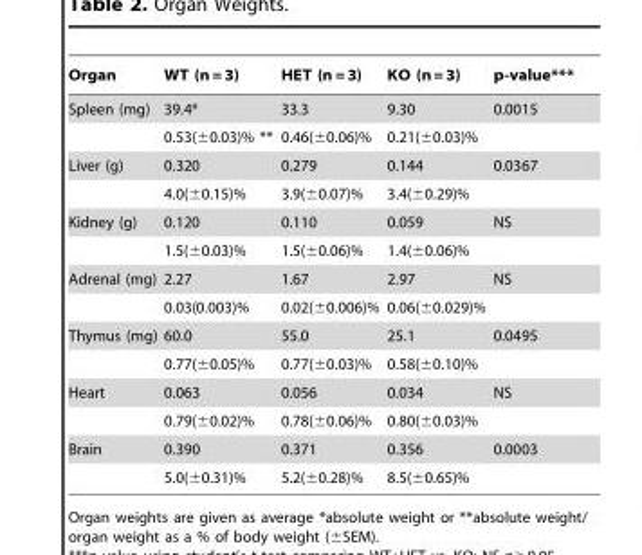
<table><thead><tr><td>Organ</td><td>WT (n = 3)</td><td>HET (n = 3)</td><td>KO (n = 3)</td><td>p-value***</td></tr></thead><tbody><tr><td rowspan="2">Spleen (mg)</td><td>39.4*</td><td>33.3</td><td>9.30</td><td>0.0015</td></tr><tr><td>0.53(±0.03)% **</td><td>0.46(±0.06)%</td><td>0.21(±0.03)%</td><td></td></tr><tr><td rowspan="2">Liver (g)</td><td>0.320</td><td>0.279</td><td>0.144</td><td>0.0367</td></tr><tr><td>4.0(±0.15)%</td><td>3.9(±0.07)%</td><td>3.4(±0.29)%</td><td></td></tr><tr><td rowspan="2">Kidney (g)</td><td>0.120</td><td>0.110</td><td>0.059</td><td>NS</td></tr><tr><td>1.5(±0.03)%</td><td>1.5(±0.06)%</td><td>1.4(±0.06)%</td><td></td></tr><tr><td rowspan="2">Adrenal (mg)</td><td>2.27</td><td>1.67</td><td>2.97</td><td>NS</td></tr><tr><td>0.03(0.003)%</td><td>0.02(±0.006)%</td><td>0.06(±0.029)%</td><td></td></tr><tr><td rowspan="2">Thymus (mg)</td><td>60.0</td><td>55.0</td><td>25.1</td><td>0.0495</td></tr><tr><td>0.77(±0.05)%</td><td>0.77(±0.03)%</td><td>0.58(±0.10)%</td><td></td></tr><tr><td rowspan="2">Heart</td><td>0.063</td><td>0.056</td><td>0.034</td><td>NS</td></tr><tr><td>0.79(±0.02)%</td><td>0.78(±0.06)%</td><td>0.80(±0.03)%</td><td></td></tr><tr><td rowspan="2">Brain</td><td>0.390</td><td>0.371</td><td>0.356</td><td>0.0003</td></tr><tr><td>5.0(±0.31)%</td><td>5.2(±0.28)%</td><td>8.5(±0.65)%</td><td></td></tr></tbody></table>